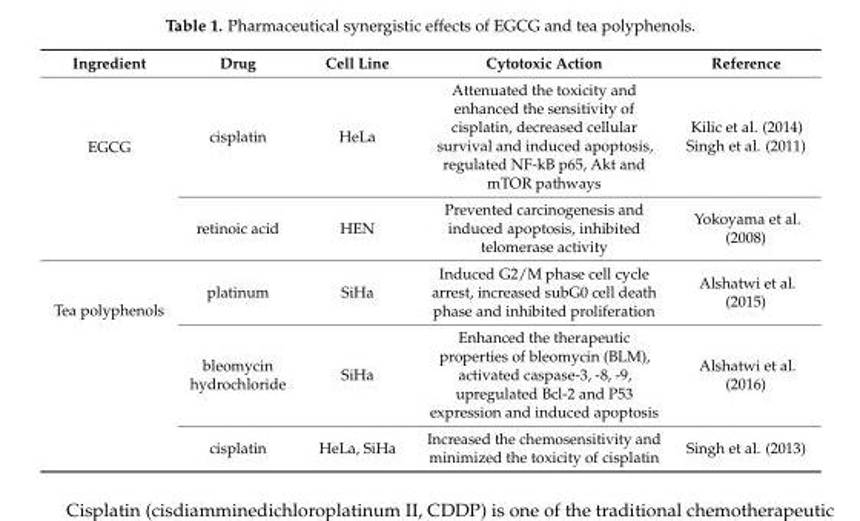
<table><thead><tr><td>Ingredient</td><td>Drug</td><td>Cell Line</td><td>Cytotoxic Action</td><td>Reference</td></tr></thead><tbody><tr><td rowspan="2">EGCG</td><td>cisplatin</td><td>HeLa</td><td>Attenuated the toxicity and enhanced the sensitivity of cisplatin, decreased cellular survival and induced apoptosis, regulated NF-kB p65, Akt and mTOR pathways</td><td>Kilic et al. (2014) Singh et al. (2011)</td></tr><tr><td>retinoic acid</td><td>HEN</td><td>Prevented carcinogenesis and induced apoptosis, inhibited telomerase activity</td><td>Yokoyama et al. (2008)</td></tr><tr><td rowspan="3">Tea polyphenols</td><td>platinum</td><td>SiHa</td><td>Induced G2/M phase cell cycle arrest, increased subG0 cell death phase and inhibited proliferation</td><td>Alshatwi et al. (2015)</td></tr><tr><td>bleomycin hydrochloride</td><td>SiHa</td><td>Enhanced the therapeutic properties of bleomycin (BLM), activated caspase-3, -8, -9, upregulated Bcl-2 and P53 expression and induced apoptosis</td><td>Alshatwi et al. (2016)</td></tr><tr><td>cisplatin</td><td>HeLa, SiHa</td><td>Increased the chemosensitivity and minimized the toxicity of cisplatin</td><td>Singh et al. (2013)</td></tr></tbody></table>